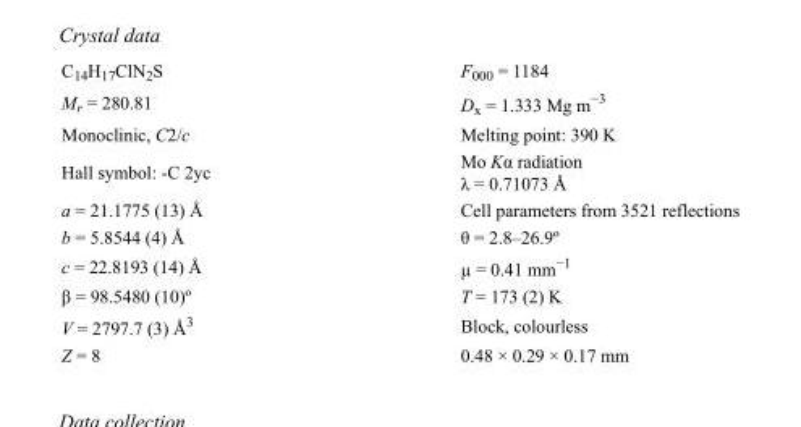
<table><tbody><tr><td>C<sub>14</sub>H<sub>17</sub>ClN<sub>2</sub>S</td><td>F<sub>000</sub> = 1184</td></tr><tr><td>M<sub>r</sub> = 280.81</td><td>D<sub>x</sub> = 1.333 Mg m<sup>−3</sup></td></tr><tr><td>Monoclinic, C2/c</td><td>Melting point: 390 K</td></tr><tr><td>Hall symbol: -C 2yc</td><td>Mo Kα radiation λ = 0.71073 Å</td></tr><tr><td>a = 21.1775 (13) Å</td><td>Cell parameters from 3521 reflections</td></tr><tr><td>b = 5.8544 (4) Å</td><td>θ = 2.8–26.9º</td></tr><tr><td>c = 22.8193 (14) Å</td><td>µ = 0.41 mm<sup>−1</sup></td></tr><tr><td>β = 98.5480 (10)º</td><td>T = 173 (2) K</td></tr><tr><td>V = 2797.7 (3) Å<sup>3</sup></td><td>Block, colourless</td></tr><tr><td>Z = 8</td><td>0.48 × 0.29 × 0.17 mm</td></tr></tbody></table>